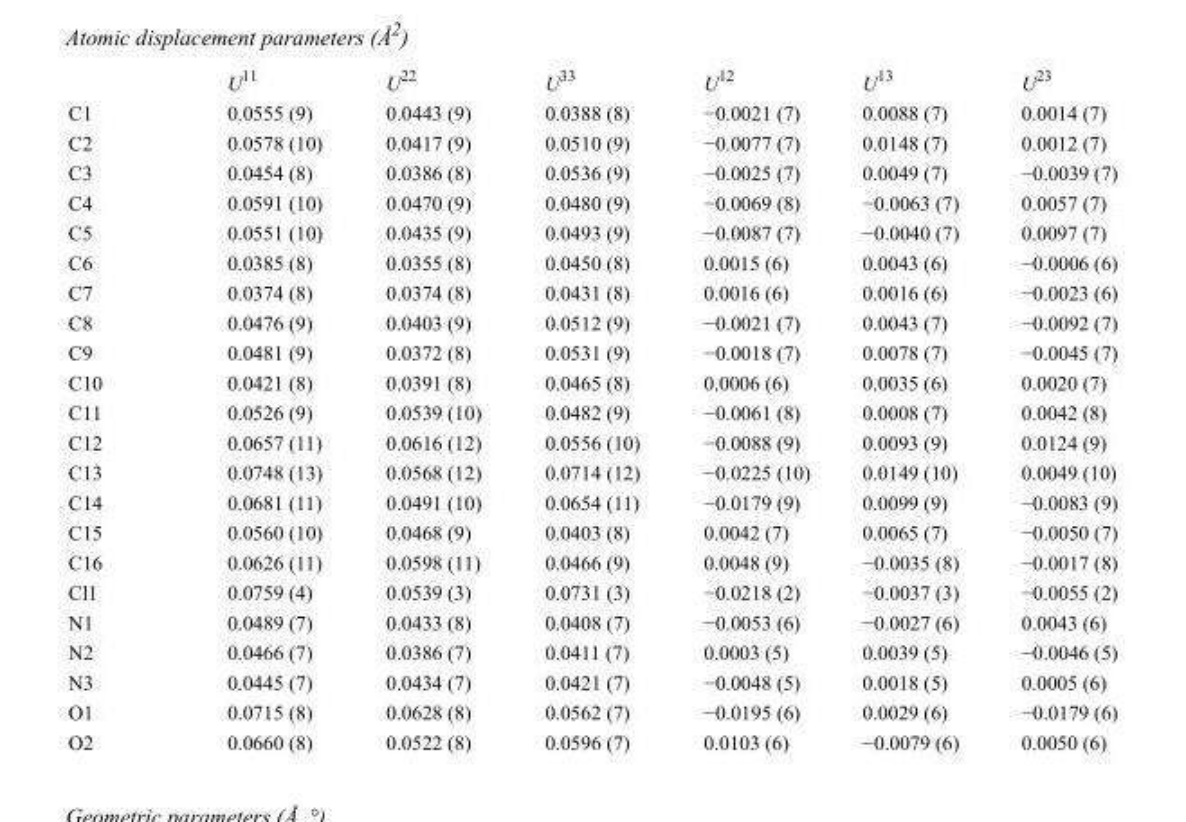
<table><thead><tr><td></td><td>U<sup>11</sup></td><td>U<sup>22</sup></td><td>U<sup>33</sup></td><td>U<sup>12</sup></td><td>U<sup>13</sup></td><td>U<sup>23</sup></td></tr></thead><tbody><tr><td>C1</td><td>0.0555 (9)</td><td>0.0443 (9)</td><td>0.0388 (8)</td><td>−0.0021 (7)</td><td>0.0088 (7)</td><td>0.0014 (7)</td></tr><tr><td>C2</td><td>0.0578 (10)</td><td>0.0417 (9)</td><td>0.0510 (9)</td><td>−0.0077 (7)</td><td>0.0148 (7)</td><td>0.0012 (7)</td></tr><tr><td>C3</td><td>0.0454 (8)</td><td>0.0386 (8)</td><td>0.0536 (9)</td><td>−0.0025 (7)</td><td>0.0049 (7)</td><td>−0.0039 (7)</td></tr><tr><td>C4</td><td>0.0591 (10)</td><td>0.0470 (9)</td><td>0.0480 (9)</td><td>−0.0069 (8)</td><td>−0.0063 (7)</td><td>0.0057 (7)</td></tr><tr><td>C5</td><td>0.0551 (10)</td><td>0.0435 (9)</td><td>0.0493 (9)</td><td>−0.0087 (7)</td><td>−0.0040 (7)</td><td>0.0097 (7)</td></tr><tr><td>C6</td><td>0.0385 (8)</td><td>0.0355 (8)</td><td>0.0450 (8)</td><td>0.0015 (6)</td><td>0.0043 (6)</td><td>−0.0006 (6)</td></tr><tr><td>C7</td><td>0.0374 (8)</td><td>0.0374 (8)</td><td>0.0431 (8)</td><td>0.0016 (6)</td><td>0.0016 (6)</td><td>−0.0023 (6)</td></tr><tr><td>C8</td><td>0.0476 (9)</td><td>0.0403 (9)</td><td>0.0512 (9)</td><td>−0.0021 (7)</td><td>0.0043 (7)</td><td>−0.0092 (7)</td></tr><tr><td>C9</td><td>0.0481 (9)</td><td>0.0372 (8)</td><td>0.0531 (9)</td><td>−0.0018 (7)</td><td>0.0078 (7)</td><td>−0.0045 (7)</td></tr><tr><td>C10</td><td>0.0421 (8)</td><td>0.0391 (8)</td><td>0.0465 (8)</td><td>0.0006 (6)</td><td>0.0035 (6)</td><td>0.0020 (7)</td></tr><tr><td>C11</td><td>0.0526 (9)</td><td>0.0539 (10)</td><td>0.0482 (9)</td><td>−0.0061 (8)</td><td>0.0008 (7)</td><td>0.0042 (8)</td></tr><tr><td>C12</td><td>0.0657 (11)</td><td>0.0616 (12)</td><td>0.0556 (10)</td><td>−0.0088 (9)</td><td>0.0093 (9)</td><td>0.0124 (9)</td></tr><tr><td>C13</td><td>0.0748 (13)</td><td>0.0568 (12)</td><td>0.0714 (12)</td><td>−0.0225 (10)</td><td>0.0149 (10)</td><td>0.0049 (10)</td></tr><tr><td>C14</td><td>0.0681 (11)</td><td>0.0491 (10)</td><td>0.0654 (11)</td><td>−0.0179 (9)</td><td>0.0099 (9)</td><td>−0.0083 (9)</td></tr><tr><td>C15</td><td>0.0560 (10)</td><td>0.0468 (9)</td><td>0.0403 (8)</td><td>0.0042 (7)</td><td>0.0065 (7)</td><td>−0.0050 (7)</td></tr><tr><td>C16</td><td>0.0626 (11)</td><td>0.0598 (11)</td><td>0.0466 (9)</td><td>0.0048 (9)</td><td>−0.0035 (8)</td><td>−0.0017 (8)</td></tr><tr><td>Cl1</td><td>0.0759 (4)</td><td>0.0539 (3)</td><td>0.0731 (3)</td><td>−0.0218 (2)</td><td>−0.0037 (3)</td><td>−0.0055 (2)</td></tr><tr><td>N1</td><td>0.0489 (7)</td><td>0.0433 (8)</td><td>0.0408 (7)</td><td>−0.0053 (6)</td><td>−0.0027 (6)</td><td>0.0043 (6)</td></tr><tr><td>N2</td><td>0.0466 (7)</td><td>0.0386 (7)</td><td>0.0411 (7)</td><td>0.0003 (5)</td><td>0.0039 (5)</td><td>−0.0046 (5)</td></tr><tr><td>N3</td><td>0.0445 (7)</td><td>0.0434 (7)</td><td>0.0421 (7)</td><td>−0.0048 (5)</td><td>0.0018 (5)</td><td>0.0005 (6)</td></tr><tr><td>O1</td><td>0.0715 (8)</td><td>0.0628 (8)</td><td>0.0562 (7)</td><td>−0.0195 (6)</td><td>0.0029 (6)</td><td>−0.0179 (6)</td></tr><tr><td>O2</td><td>0.0660 (8)</td><td>0.0522 (8)</td><td>0.0596 (7)</td><td>0.0103 (6)</td><td>−0.0079 (6)</td><td>0.0050 (6)</td></tr></tbody></table>